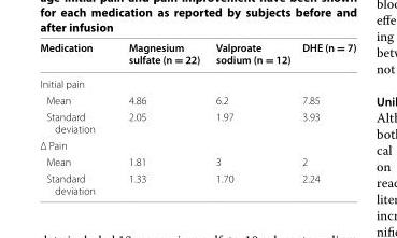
<table><thead><tr><td>Medication</td><td>Magnesium sulfate (n = 22)</td><td>Valproate sodium (n = 12)</td><td>DHE (n = 7)</td></tr></thead><tbody><tr><td colspan="4">Initial pain</td></tr><tr><td>Mean</td><td>4.86</td><td>6.2</td><td>7.85</td></tr><tr><td>Standard deviation</td><td>2.05</td><td>1.97</td><td>3.93</td></tr><tr><td colspan="4">Δ Pain</td></tr><tr><td>Mean</td><td>1.81</td><td>3</td><td>2</td></tr><tr><td>Standard deviation</td><td>1.33</td><td>1.70</td><td>2.24</td></tr></tbody></table>